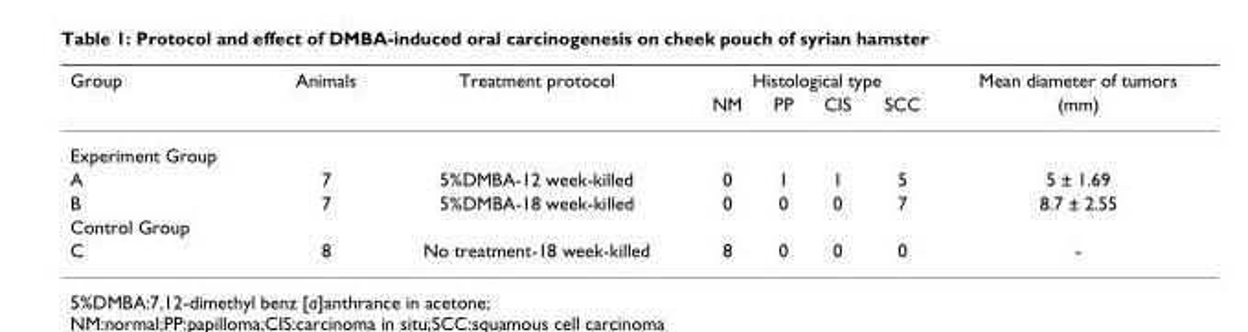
<table><thead><tr><td rowspan="2">Group</td><td rowspan="2">Animals</td><td rowspan="2">Treatment protocol</td><td colspan="4">Histological type</td><td rowspan="2">Mean diameter of tumors (mm)</td></tr><tr><td>NM</td><td>PP</td><td>CIS</td><td>SCC</td></tr></thead><tbody><tr><td colspan="8">Experiment Group</td></tr><tr><td>A</td><td>7</td><td>5%DMBA-12 week-killed</td><td>0</td><td>1</td><td>1</td><td>5</td><td>5 ± 1.69</td></tr><tr><td>B</td><td>7</td><td>5%DMBA-18 week-killed</td><td>0</td><td>0</td><td>0</td><td>7</td><td>8.7 ± 2.55</td></tr><tr><td colspan="8">Control Group</td></tr><tr><td>C</td><td>8</td><td>No treatment-18 week-killed</td><td>8</td><td>0</td><td>0</td><td>0</td><td>-</td></tr></tbody></table>